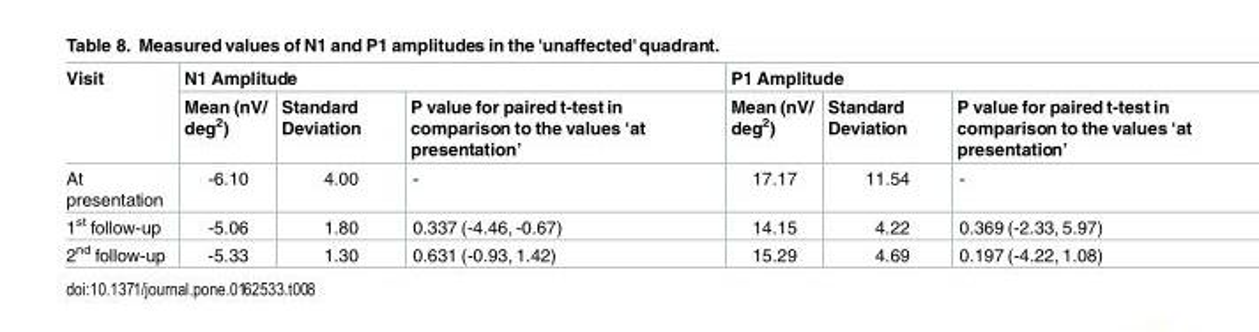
<table><thead><tr><td rowspan="2">Visit</td><td colspan="3">N1 Amplitude</td><td colspan="3">P1 Amplitude</td></tr><tr><td>Mean (nV/ deg<sup>2</sup>)</td><td>Standard Deviation</td><td>P value for paired t-test in comparison to the values ‘at presentation’</td><td>Mean (nV/ deg<sup>2</sup>)</td><td>Standard Deviation</td><td>P value for paired t-test in comparison to the values ‘at presentation’</td></tr></thead><tbody><tr><td>At presentation</td><td>-6.10</td><td>4.00</td><td>-</td><td>17.17</td><td>11.54</td><td>-</td></tr><tr><td>1<sup>st</sup> follow-up</td><td>-5.06</td><td>1.80</td><td>0.337 (-4.46, -0.67)</td><td>14.15</td><td>4.22</td><td>0.369 (-2.33, 5.97)</td></tr><tr><td>2<sup>nd</sup> follow-up</td><td>-5.33</td><td>1.30</td><td>0.631 (-0.93, 1.42)</td><td>15.29</td><td>4.69</td><td>0.197 (-4.22, 1.08)</td></tr></tbody></table>